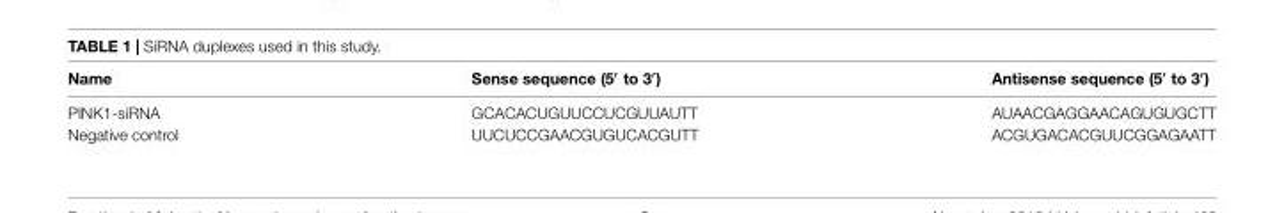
<table><thead><tr><td>Name</td><td>Sense sequence (5′ to 3′)</td><td>Antisense sequence (5′ to 3′)</td></tr></thead><tbody><tr><td>PINK1-siRNA</td><td>GCACACUGUUCCUCGUUAUTT</td><td>AUAACGAGGAACAGUGUGCTT</td></tr><tr><td>Negative control</td><td>UUCUCCGAACGUGUCACGUTT</td><td>ACGUGACACGUUCGGAGAATT</td></tr></tbody></table>